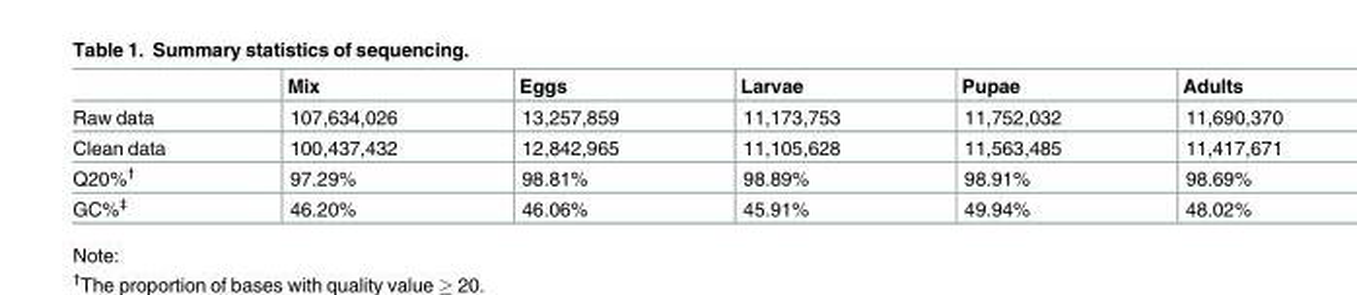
<table><thead><tr><td></td><td>Mix</td><td>Eggs</td><td>Larvae</td><td>Pupae</td><td>Adults</td></tr></thead><tbody><tr><td>Raw data</td><td>107,634,026</td><td>13,257,859</td><td>11,173,753</td><td>11,752,032</td><td>11,690,370</td></tr><tr><td>Clean data</td><td>100,437,432</td><td>12,842,965</td><td>11,105,628</td><td>11,563,485</td><td>11,417,671</td></tr><tr><td>Q20%<sup>†</sup></td><td>97.29%</td><td>98.81%</td><td>98.89%</td><td>98.91%</td><td>98.69%</td></tr><tr><td>GC%<sup>‡</sup></td><td>46.20%</td><td>46.06%</td><td>45.91%</td><td>49.94%</td><td>48.02%</td></tr></tbody></table>